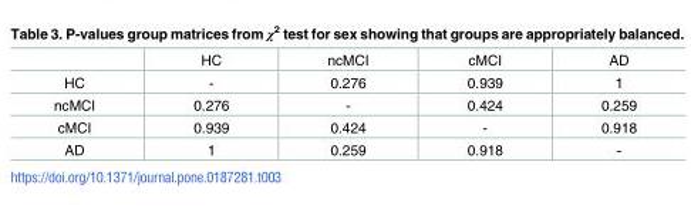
<table><thead><tr><td></td><td>HC</td><td>ncMCI</td><td>cMCI</td><td>AD</td></tr></thead><tbody><tr><td>HC</td><td>-</td><td>0.276</td><td>0.939</td><td>1</td></tr><tr><td>ncMCI</td><td>0.276</td><td>-</td><td>0.424</td><td>0.259</td></tr><tr><td>cMCI</td><td>0.939</td><td>0.424</td><td>-</td><td>0.918</td></tr><tr><td>AD</td><td>1</td><td>0.259</td><td>0.918</td><td>-</td></tr></tbody></table>